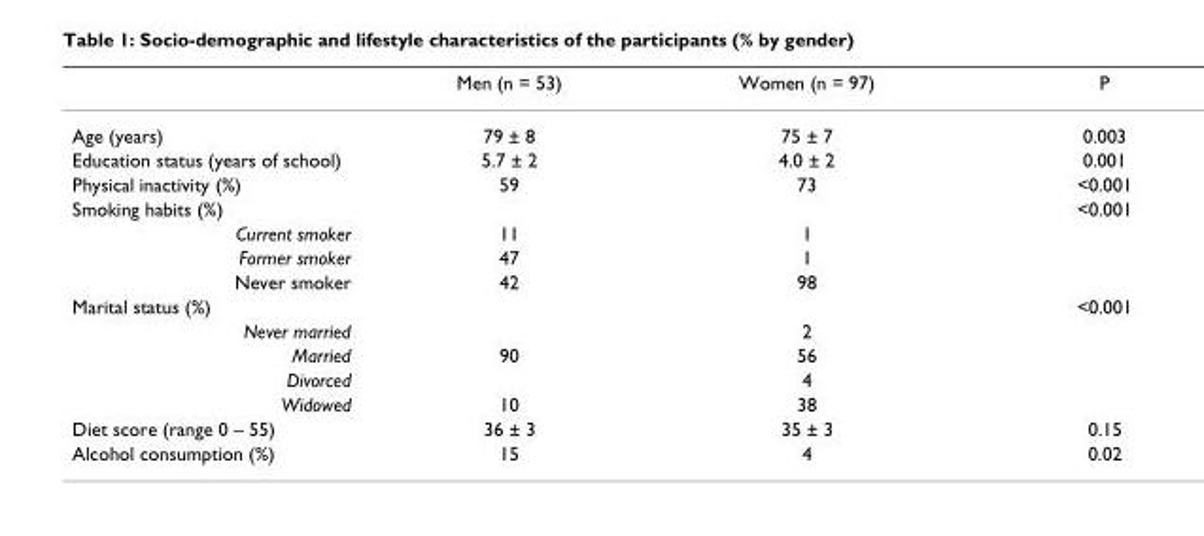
<table><thead><tr><td></td><td>Men (n = 53)</td><td>Women (n = 97)</td><td>P</td></tr></thead><tbody><tr><td>Age (years)</td><td>79 ± 8</td><td>75 ± 7</td><td>0.003</td></tr><tr><td>Education status (years of school)</td><td>5.7 ± 2</td><td>4.0 ± 2</td><td>0.001</td></tr><tr><td>Physical inactivity (%)</td><td>59</td><td>73</td><td>&lt;0.001</td></tr><tr><td>Smoking habits (%)</td><td></td><td></td><td>&lt;0.001</td></tr><tr><td>Current smoker</td><td>11</td><td>1</td><td></td></tr><tr><td>Former smoker</td><td>47</td><td>1</td><td></td></tr><tr><td>Never smoker</td><td>42</td><td>98</td><td></td></tr><tr><td>Marital status (%)</td><td></td><td></td><td>&lt;0.001</td></tr><tr><td>Never married</td><td></td><td>2</td><td></td></tr><tr><td>Married</td><td>90</td><td>56</td><td></td></tr><tr><td>Divorced</td><td></td><td>4</td><td></td></tr><tr><td>Widowed</td><td>10</td><td>38</td><td></td></tr><tr><td>Diet score (range 0 – 55)</td><td>36 ± 3</td><td>35 ± 3</td><td>0.15</td></tr><tr><td>Alcohol consumption (%)</td><td>15</td><td>4</td><td>0.02</td></tr></tbody></table>